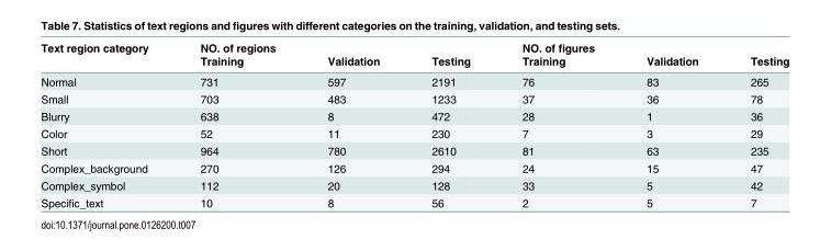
<table><thead><tr><td rowspan="2">Text region category</td><td rowspan="2">NO. of regions Training</td><td rowspan="2">Validation</td><td rowspan="2">Testing</td><td rowspan="2">NO. of figures Training</td><td rowspan="2">Validation</td><td rowspan="2">Testing</td></tr><tr></tr></thead><tbody><tr><td>Normal</td><td>731</td><td>597</td><td>2191</td><td>76</td><td>83</td><td>265</td></tr><tr><td>Small</td><td>703</td><td>483</td><td>1233</td><td>37</td><td>36</td><td>78</td></tr><tr><td>Blurry</td><td>638</td><td>8</td><td>472</td><td>28</td><td>1</td><td>36</td></tr><tr><td>Color</td><td>52</td><td>11</td><td>230</td><td>7</td><td>3</td><td>29</td></tr><tr><td>Short</td><td>964</td><td>780</td><td>2610</td><td>81</td><td>63</td><td>235</td></tr><tr><td>Complex_background</td><td>270</td><td>126</td><td>294</td><td>24</td><td>15</td><td>47</td></tr><tr><td>Complex_symbol</td><td>112</td><td>20</td><td>128</td><td>33</td><td>5</td><td>42</td></tr><tr><td>Specific_text</td><td>10</td><td>8</td><td>56</td><td>2</td><td>5</td><td>7</td></tr></tbody></table>